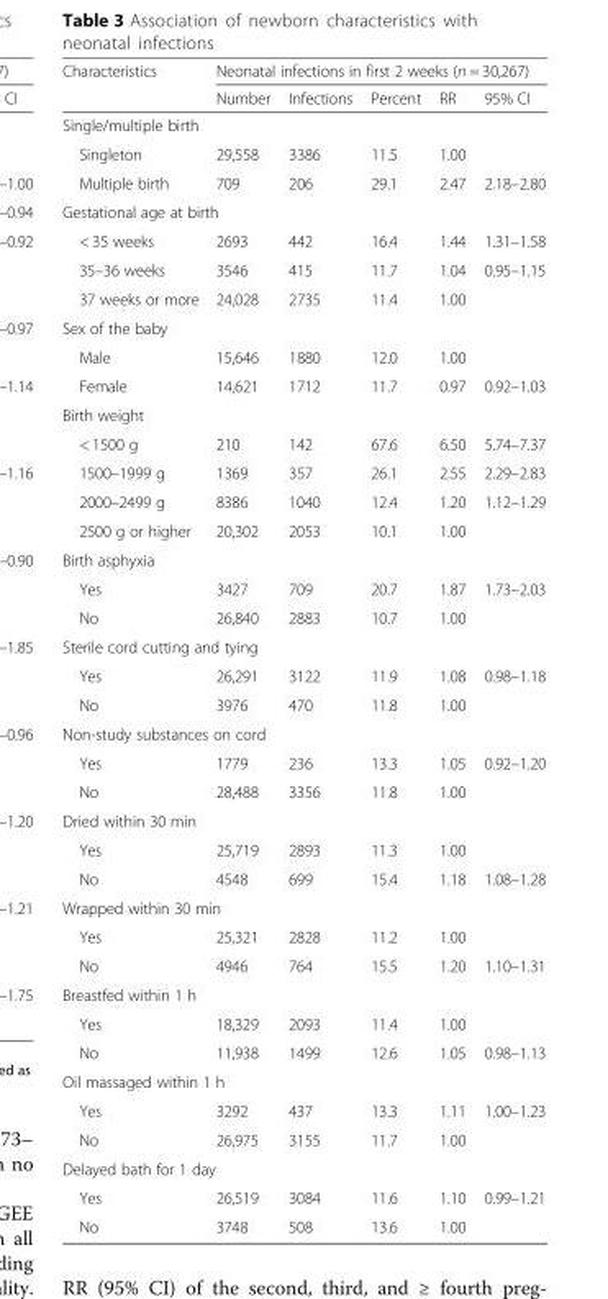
<table><thead><tr><td rowspan="2">Characteristics</td><td colspan="5">Neonatal infections in first 2 weeks (n = 30,267)</td></tr><tr><td>Number</td><td>Infections</td><td>Percent</td><td>RR</td><td>95% CI</td></tr></thead><tbody><tr><td colspan="6">Single/multiple birth</td></tr><tr><td>Singleton</td><td>29,558</td><td>3386</td><td>11.5</td><td>1.00</td><td></td></tr><tr><td>Multiple birth</td><td>709</td><td>206</td><td>29.1</td><td>2.47</td><td>2.18–2.80</td></tr><tr><td colspan="6">Gestational age at birth</td></tr><tr><td>&lt; 35 weeks</td><td>2693</td><td>442</td><td>16.4</td><td>1.44</td><td>1.31–1.58</td></tr><tr><td>35–36 weeks</td><td>3546</td><td>415</td><td>11.7</td><td>1.04</td><td>0.95–1.15</td></tr><tr><td>37 weeks or more</td><td>24,028</td><td>2735</td><td>11.4</td><td>1.00</td><td></td></tr><tr><td colspan="6">Sex of the baby</td></tr><tr><td>Male</td><td>15,646</td><td>1880</td><td>12.0</td><td>1.00</td><td></td></tr><tr><td>Female</td><td>14,621</td><td>1712</td><td>11.7</td><td>0.97</td><td>0.92–1.03</td></tr><tr><td colspan="6">Birth weight</td></tr><tr><td>&lt; 1500 g</td><td>210</td><td>142</td><td>67.6</td><td>6.50</td><td>5.74–7.37</td></tr><tr><td>1500–1999 g</td><td>1369</td><td>357</td><td>26.1</td><td>2.55</td><td>2.29–2.83</td></tr><tr><td>2000–2499 g</td><td>8386</td><td>1040</td><td>12.4</td><td>1.20</td><td>1.12–1.29</td></tr><tr><td>2500 g or higher</td><td>20,302</td><td>2053</td><td>10.1</td><td>1.00</td><td></td></tr><tr><td colspan="6">Birth asphyxia</td></tr><tr><td>Yes</td><td>3427</td><td>709</td><td>20.7</td><td>1.87</td><td>1.73–2.03</td></tr><tr><td>No</td><td>26,840</td><td>2883</td><td>10.7</td><td>1.00</td><td></td></tr><tr><td colspan="6">Sterile cord cutting and tying</td></tr><tr><td>Yes</td><td>26,291</td><td>3122</td><td>11.9</td><td>1.08</td><td>0.98–1.18</td></tr><tr><td>No</td><td>3976</td><td>470</td><td>11.8</td><td>1.00</td><td></td></tr><tr><td colspan="6">Non-study substances on cord</td></tr><tr><td>Yes</td><td>1779</td><td>236</td><td>13.3</td><td>1.05</td><td>0.92–1.20</td></tr><tr><td>No</td><td>28,488</td><td>3356</td><td>11.8</td><td>1.00</td><td></td></tr><tr><td colspan="6">Dried within 30 min</td></tr><tr><td>Yes</td><td>25,719</td><td>2893</td><td>11.3</td><td>1.00</td><td></td></tr><tr><td>No</td><td>4548</td><td>699</td><td>15.4</td><td>1.18</td><td>1.08–1.28</td></tr><tr><td colspan="6">Wrapped within 30 min</td></tr><tr><td>Yes</td><td>25,321</td><td>2828</td><td>11.2</td><td>1.00</td><td></td></tr><tr><td>No</td><td>4946</td><td>764</td><td>15.5</td><td>1.20</td><td>1.10–1.31</td></tr><tr><td colspan="6">Breastfed within 1 h</td></tr><tr><td>Yes</td><td>18,329</td><td>2093</td><td>11.4</td><td>1.00</td><td></td></tr><tr><td>No</td><td>11,938</td><td>1499</td><td>12.6</td><td>1.05</td><td>0.98–1.13</td></tr><tr><td colspan="6">Oil massaged within 1 h</td></tr><tr><td>Yes</td><td>3292</td><td>437</td><td>13.3</td><td>1.11</td><td>1.00–1.23</td></tr><tr><td>No</td><td>26,975</td><td>3155</td><td>11.7</td><td>1.00</td><td></td></tr><tr><td colspan="6">Delayed bath for 1 day</td></tr><tr><td>Yes</td><td>26,519</td><td>3084</td><td>11.6</td><td>1.10</td><td>0.99–1.21</td></tr><tr><td>No</td><td>3748</td><td>508</td><td>13.6</td><td>1.00</td><td></td></tr></tbody></table>